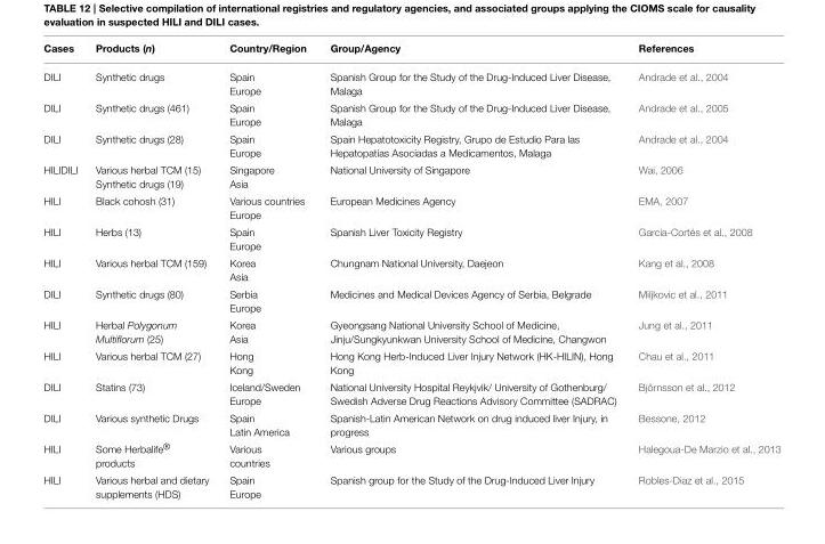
<table><thead><tr><td>Cases</td><td>Products (n)</td><td>Country/Region</td><td>Group/Agency</td><td>References</td></tr></thead><tbody><tr><td>DILI</td><td>Synthetic drugs</td><td>Spain Europe</td><td>Spanish Group for the Study of the Drug-Induced Liver Disease, Malaga</td><td>Andrade et al., 2004</td></tr><tr><td>DILI</td><td>Synthetic drugs (461)</td><td>Spain Europe</td><td>Spanish Group for the Study of the Drug-Induced Liver Disease, Malaga</td><td>Andrade et al., 2005</td></tr><tr><td>DILI</td><td>Synthetic drugs (28)</td><td>Spain Europe</td><td>Spain Hepatotoxicity Registry, Grupo de Estudio Para las Hepatopatías Asociadas a Medicamentos, Malaga</td><td>Andrade et al., 2004</td></tr><tr><td>HILIDILI</td><td>Various herbal TCM (15) Synthetic drugs (19)</td><td>Singapore Asia</td><td>National University of Singapore</td><td>Wai, 2006</td></tr><tr><td>HILI</td><td>Black cohosh (31)</td><td>Various countries Europe</td><td>European Medicines Agency</td><td>EMA, 2007</td></tr><tr><td>HILI</td><td>Herbs (13)</td><td>Spain Europe</td><td>Spanish Liver Toxicity Registry</td><td>García-Cortés et al., 2008</td></tr><tr><td>HILI</td><td>Various herbal TCM (159)</td><td>Korea Asia</td><td>Chungnam National University, Daejeon</td><td>Kang et al., 2008</td></tr><tr><td>DILI</td><td>Synthetic drugs (80)</td><td>Serbia Europe</td><td>Medicines and Medical Devices Agency of Serbia, Belgrade</td><td>Miljkovic et al., 2011</td></tr><tr><td>HILI</td><td>Herbal Polygonum Multiflorum (25)</td><td>Korea Asia</td><td>Gyeongsang National University School of Medicine, Jinju/Sungkyunkwan University School of Medicine, Changwon</td><td>Jung et al., 2011</td></tr><tr><td>HILI</td><td>Various herbal TCM (27)</td><td>Hong Kong</td><td>Hong Kong Herb-Induced Liver Injury Network (HK-HILIN), Hong Kong</td><td>Chau et al., 2011</td></tr><tr><td>DILI</td><td>Statins (73)</td><td>Iceland/Sweden Europe</td><td>National University Hospital Reykjvik/ University of Gothenburg/ Swedish Adverse Drug Reactions Advisory Committee (SADRAC)</td><td>Björnsson et al., 2012</td></tr><tr><td>DILI</td><td>Various synthetic Drugs</td><td>Spain Latin America</td><td>Spanish-Latin American Network on drug induced liver Injury, in progress</td><td>Bessone, 2012</td></tr><tr><td>HILI</td><td>Some Herbalife® products</td><td>Various countries</td><td>Various groups</td><td>Halegoua-De Marzio et al., 2013</td></tr><tr><td>HILI</td><td>Various herbal and dietary supplements (HDS)</td><td>Spain Europe</td><td>Spanish group for the Study of the Drug-Induced Liver Injury</td><td>Robles-Diaz et al., 2015</td></tr></tbody></table>